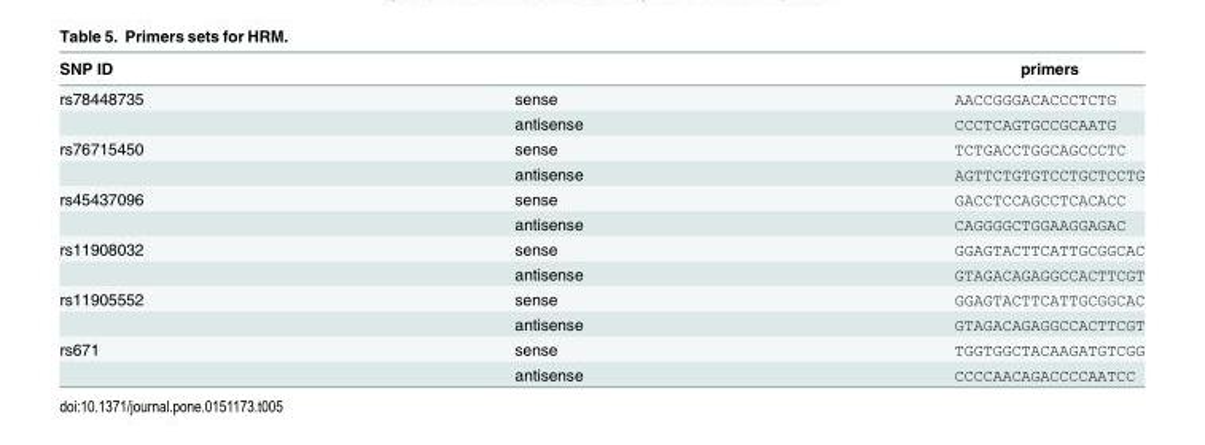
<table><thead><tr><td>SNP ID</td><td></td><td>primers</td></tr></thead><tbody><tr><td rowspan="2">rs78448735</td><td>sense</td><td>AACCGGGACACCCTCTG</td></tr><tr><td>antisense</td><td>CCCTCAGTGCCGCAATG</td></tr><tr><td rowspan="2">rs76715450</td><td>sense</td><td>TCTGACCTGGCAGCCCTC</td></tr><tr><td>antisense</td><td>AGTTCTGTGTCCTGCTCCTG</td></tr><tr><td rowspan="2">rs45437096</td><td>sense</td><td>GACCTCCAGCCTCACACC</td></tr><tr><td>antisense</td><td>CAGGGGCTGGAAGGAGAC</td></tr><tr><td rowspan="2">rs11908032</td><td>sense</td><td>GGAGTACTTCATTGCGGCAC</td></tr><tr><td>antisense</td><td>GTAGACAGAGGCCACTTCGT</td></tr><tr><td rowspan="2">rs11905552</td><td>sense</td><td>GGAGTACTTCATTGCGGCAC</td></tr><tr><td>antisense</td><td>GTAGACAGAGGCCACTTCGT</td></tr><tr><td rowspan="2">rs671</td><td>sense</td><td>TGGTGGCTACAAGATGTCGG</td></tr><tr><td>antisense</td><td>CCCCAACAGACCCCAATCC</td></tr></tbody></table>